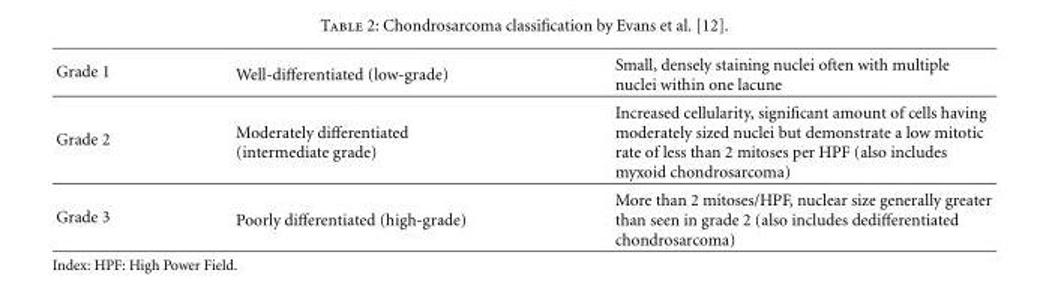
<table><tbody><tr><td>Grade 1</td><td>Well-differentiated (low-grade)</td><td>Small, densely staining nuclei often with multiple nuclei within one lacune</td></tr><tr><td>Grade 2</td><td>Moderately differentiated (intermediate grade)</td><td>Increased cellularity, significant amount of cells having moderately sized nuclei but demonstrate a low mitotic rate of less than 2 mitoses per HPF (also includes myxoid chondrosarcoma)</td></tr><tr><td>Grade 3</td><td>Poorly differentiated (high-grade)</td><td>More than 2 mitoses/HPF, nuclear size generally greater than seen in grade 2 (also includes dedifferentiated chondrosarcoma)</td></tr></tbody></table>